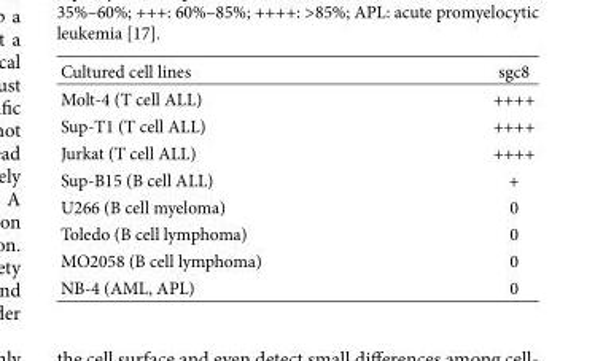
<table><thead><tr><td>Cultured cell lines</td><td>sgc8</td></tr></thead><tbody><tr><td>Molt-4 (T cell ALL)</td><td>++++</td></tr><tr><td>Sup-T1 (T cell ALL)</td><td>++++</td></tr><tr><td>Jurkat (T cell ALL)</td><td>++++</td></tr><tr><td>Sup-B15 (B cell ALL)</td><td>+</td></tr><tr><td>U266 (B cell myeloma)</td><td>0</td></tr><tr><td>Toledo (B cell lymphoma)</td><td>0</td></tr><tr><td>MO2058 (B cell lymphoma)</td><td>0</td></tr><tr><td>NB-4 (AML, APL)</td><td>0</td></tr></tbody></table>